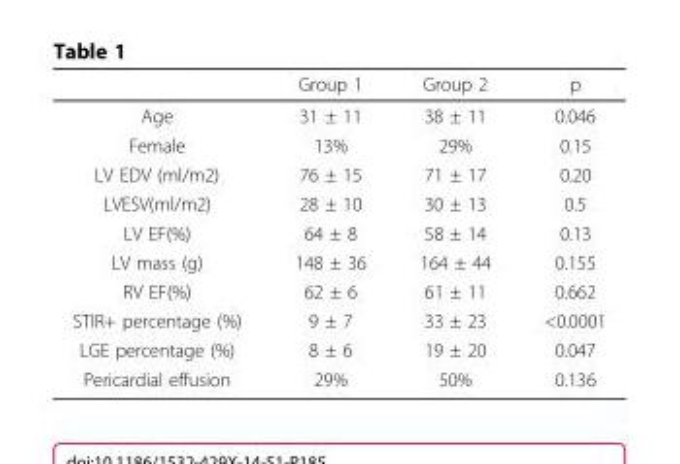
<table><thead><tr><td></td><td>Group 1</td><td>Group 2</td><td>p</td></tr></thead><tbody><tr><td>Age</td><td>31 ± 11</td><td>38 ± 11</td><td>0.046</td></tr><tr><td>Female</td><td>13%</td><td>29%</td><td>0.15</td></tr><tr><td>LV EDV (ml/m2)</td><td>76 ± 15</td><td>71 ± 17</td><td>0.20</td></tr><tr><td>LVESV(ml/m2)</td><td>28 ± 10</td><td>30 ± 13</td><td>0.5</td></tr><tr><td>LV EF(%)</td><td>64 ± 8</td><td>58 ± 14</td><td>0.13</td></tr><tr><td>LV mass (g)</td><td>148 ± 36</td><td>164 ± 44</td><td>0.155</td></tr><tr><td>RV EF(%)</td><td>62 ± 6</td><td>61 ± 11</td><td>0.662</td></tr><tr><td>STIR+ percentage (%)</td><td>9 ± 7</td><td>33 ± 23</td><td>&lt;0.0001</td></tr><tr><td>LGE percentage (%)</td><td>8 ± 6</td><td>19 ± 20</td><td>0.047</td></tr><tr><td>Pericardial effusion</td><td>29%</td><td>50%</td><td>0.136</td></tr></tbody></table>